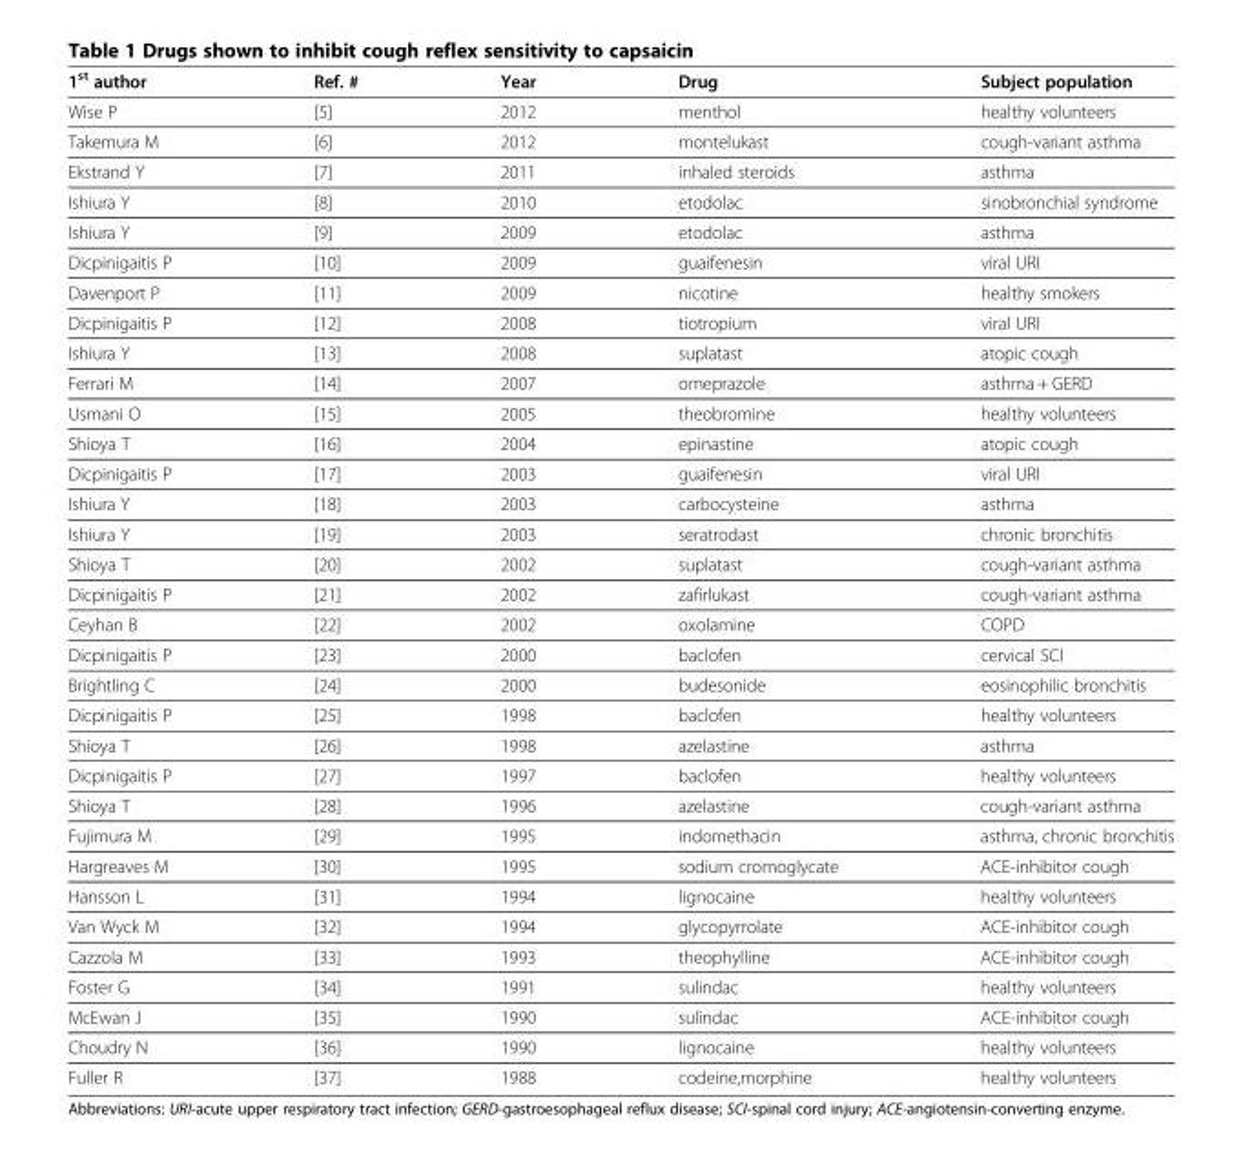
<table><thead><tr><td>1<sup>st</sup> author</td><td>Ref. #</td><td>Year</td><td>Drug</td><td>Subject population</td></tr></thead><tbody><tr><td>Wise P</td><td>[5]</td><td>2012</td><td>menthol</td><td>healthy volunteers</td></tr><tr><td>Takemura M</td><td>[6]</td><td>2012</td><td>montelukast</td><td>cough-variant asthma</td></tr><tr><td>Ekstrand Y</td><td>[7]</td><td>2011</td><td>inhaled steroids</td><td>asthma</td></tr><tr><td>Ishiura Y</td><td>[8]</td><td>2010</td><td>etodolac</td><td>sinobronchial syndrome</td></tr><tr><td>Ishiura Y</td><td>[9]</td><td>2009</td><td>etodolac</td><td>asthma</td></tr><tr><td>Dicpinigaitis P</td><td>[10]</td><td>2009</td><td>guaifenesin</td><td>viral URI</td></tr><tr><td>Davenport P</td><td>[11]</td><td>2009</td><td>nicotine</td><td>healthy smokers</td></tr><tr><td>Dicpinigaitis P</td><td>[12]</td><td>2008</td><td>tiotropium</td><td>viral URI</td></tr><tr><td>Ishiura Y</td><td>[13]</td><td>2008</td><td>suplatast</td><td>atopic cough</td></tr><tr><td>Ferrari M</td><td>[14]</td><td>2007</td><td>omeprazole</td><td>asthma + GERD</td></tr><tr><td>Usmani O</td><td>[15]</td><td>2005</td><td>theobromine</td><td>healthy volunteers</td></tr><tr><td>Shioya T</td><td>[16]</td><td>2004</td><td>epinastine</td><td>atopic cough</td></tr><tr><td>Dicpinigaitis P</td><td>[17]</td><td>2003</td><td>guaifenesin</td><td>viral URI</td></tr><tr><td>Ishiura Y</td><td>[18]</td><td>2003</td><td>carbocysteine</td><td>asthma</td></tr><tr><td>Ishiura Y</td><td>[19]</td><td>2003</td><td>seratrodast</td><td>chronic bronchitis</td></tr><tr><td>Shioya T</td><td>[20]</td><td>2002</td><td>suplatast</td><td>cough-variant asthma</td></tr><tr><td>Dicpinigaitis P</td><td>[21]</td><td>2002</td><td>zafirlukast</td><td>cough-variant asthma</td></tr><tr><td>Ceyhan B</td><td>[22]</td><td>2002</td><td>oxolamine</td><td>COPD</td></tr><tr><td>Dicpinigaitis P</td><td>[23]</td><td>2000</td><td>baclofen</td><td>cervical SCI</td></tr><tr><td>Brightling C</td><td>[24]</td><td>2000</td><td>budesonide</td><td>eosinophilic bronchitis</td></tr><tr><td>Dicpinigaitis P</td><td>[25]</td><td>1998</td><td>baclofen</td><td>healthy volunteers</td></tr><tr><td>Shioya T</td><td>[26]</td><td>1998</td><td>azelastine</td><td>asthma</td></tr><tr><td>Dicpinigaitis P</td><td>[27]</td><td>1997</td><td>baclofen</td><td>healthy volunteers</td></tr><tr><td>Shioya T</td><td>[28]</td><td>1996</td><td>azelastine</td><td>cough-variant asthma</td></tr><tr><td>Fujimura M</td><td>[29]</td><td>1995</td><td>indomethacin</td><td>asthma, chronic bronchitis</td></tr><tr><td>Hargreaves M</td><td>[30]</td><td>1995</td><td>sodium cromoglycate</td><td>ACE-inhibitor cough</td></tr><tr><td>Hansson L</td><td>[31]</td><td>1994</td><td>lignocaine</td><td>healthy volunteers</td></tr><tr><td>Van Wyck M</td><td>[32]</td><td>1994</td><td>glycopyrrolate</td><td>ACE-inhibitor cough</td></tr><tr><td>Cazzola M</td><td>[33]</td><td>1993</td><td>theophylline</td><td>ACE-inhibitor cough</td></tr><tr><td>Foster G</td><td>[34]</td><td>1991</td><td>sulindac</td><td>healthy volunteers</td></tr><tr><td>McEwan J</td><td>[35]</td><td>1990</td><td>sulindac</td><td>ACE-inhibitor cough</td></tr><tr><td>Choudry N</td><td>[36]</td><td>1990</td><td>lignocaine</td><td>healthy volunteers</td></tr><tr><td>Fuller R</td><td>[37]</td><td>1988</td><td>codeine,morphine</td><td>healthy volunteers</td></tr></tbody></table>